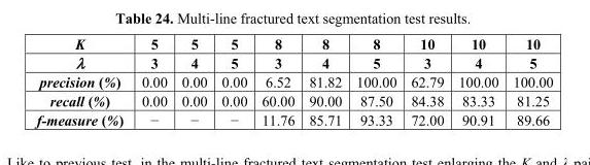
<table><thead><tr><td rowspan="2">K λ</td><td rowspan="2">5 3</td><td rowspan="2">5 4</td><td rowspan="2">5 5</td><td rowspan="2">8 3</td><td rowspan="2">8 4</td><td rowspan="2">8 5</td><td rowspan="2">10 3</td><td rowspan="2">10 4</td><td rowspan="2">10 5</td></tr><tr></tr></thead><tbody><tr><td>precision (%)</td><td>0.00</td><td>0.00</td><td>0.00</td><td>6.52</td><td>81.82</td><td>100.00</td><td>62.79</td><td>100.00</td><td>100.00</td></tr><tr><td>recall (%)</td><td>0.00</td><td>0.00</td><td>0.00</td><td>60.00</td><td>90.00</td><td>87.50</td><td>84.38</td><td>83.33</td><td>81.25</td></tr><tr><td>f-measure (%)</td><td>−</td><td>−</td><td>−</td><td>11.76</td><td>85.71</td><td>93.33</td><td>72.00</td><td>90.91</td><td>89.66</td></tr></tbody></table>